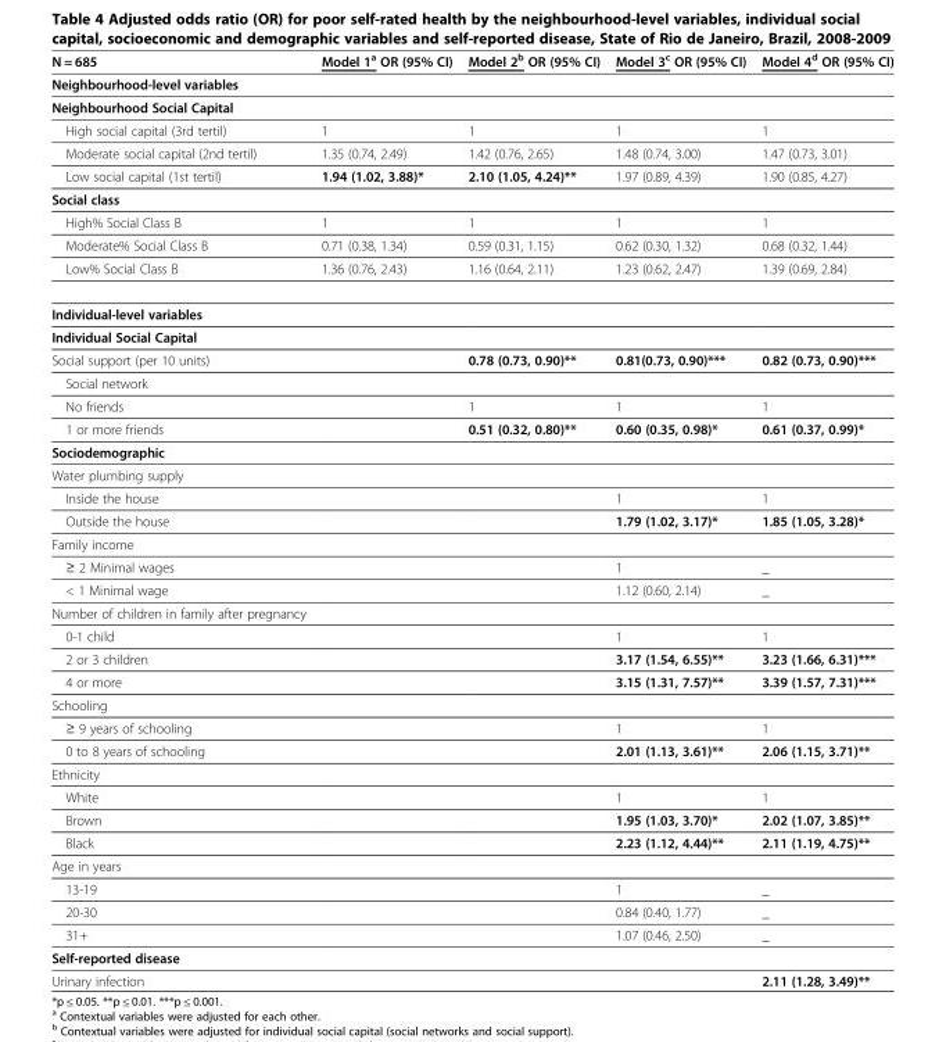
<table><thead><tr><td>N = 685</td><td>Model 1<sup>a</sup> OR (95% CI)</td><td>Model 2<sup>b</sup> OR (95% CI)</td><td>Model 3<sup>c</sup> OR (95% CI)</td><td>Model 4<sup>d</sup> OR (95% CI)</td></tr></thead><tbody><tr><td colspan="5">Neighbourhood-level variables</td></tr><tr><td colspan="5">Neighbourhood Social Capital</td></tr><tr><td>High social capital (3rd tertil)</td><td>1</td><td>1</td><td>1</td><td>1</td></tr><tr><td>Moderate social capital (2nd tertil)</td><td>1.35 (0.74, 2.49)</td><td>1.42 (0.76, 2.65)</td><td>1.48 (0.74, 3.00)</td><td>1.47 (0.73, 3.01)</td></tr><tr><td>Low social capital (1st tertil)</td><td>1.94 (1.02, 3.88)*</td><td>2.10 (1.05, 4.24)**</td><td>1.97 (0.89, 4.39)</td><td>1.90 (0.85, 4.27)</td></tr><tr><td colspan="5">Social class</td></tr><tr><td>High% Social Class B</td><td>1</td><td>1</td><td>1</td><td>1</td></tr><tr><td>Moderate% Social Class B</td><td>0.71 (0.38, 1.34)</td><td>0.59 (0.31, 1.15)</td><td>0.62 (0.30, 1.32)</td><td>0.68 (0.32, 1.44)</td></tr><tr><td>Low% Social Class B</td><td>1.36 (0.76, 2.43)</td><td>1.16 (0.64, 2.11)</td><td>1.23 (0.62, 2.47)</td><td>1.39 (0.69, 2.84)</td></tr><tr><td colspan="5">Individual-level variables</td></tr><tr><td colspan="5">Individual Social Capital</td></tr><tr><td>Social support (per 10 units)</td><td></td><td>0.78 (0.73, 0.90)**</td><td>0.81(0.73, 0.90)***</td><td>0.82 (0.73, 0.90)***</td></tr><tr><td colspan="5">Social network</td></tr><tr><td>No friends</td><td></td><td>1</td><td>1</td><td>1</td></tr><tr><td>1 or more friends</td><td></td><td>0.51 (0.32, 0.80)**</td><td>0.60 (0.35, 0.98)*</td><td>0.61 (0.37, 0.99)*</td></tr><tr><td colspan="5">Sociodemographic</td></tr><tr><td colspan="5">Water plumbing supply</td></tr><tr><td>Inside the house</td><td></td><td></td><td>1</td><td>1</td></tr><tr><td>Outside the house</td><td></td><td></td><td>1.79 (1.02, 3.17)*</td><td>1.85 (1.05, 3.28)*</td></tr><tr><td colspan="5">Family income</td></tr><tr><td>≥ 2 Minimal wages</td><td></td><td></td><td>1</td><td>_</td></tr><tr><td>&lt; 1 Minimal wage</td><td></td><td></td><td>1.12 (0.60, 2.14)</td><td>_</td></tr><tr><td colspan="5">Number of children in family after pregnancy</td></tr><tr><td>0-1 child</td><td></td><td></td><td>1</td><td>1</td></tr><tr><td>2 or 3 children</td><td></td><td></td><td>3.17 (1.54, 6.55)**</td><td>3.23 (1.66, 6.31)***</td></tr><tr><td>4 or more</td><td></td><td></td><td>3.15 (1.31, 7.57)**</td><td>3.39 (1.57, 7.31)***</td></tr><tr><td colspan="5">Schooling</td></tr><tr><td>≥ 9 years of schooling</td><td></td><td></td><td>1</td><td>1</td></tr><tr><td>0 to 8 years of schooling</td><td></td><td></td><td>2.01 (1.13, 3.61)**</td><td>2.06 (1.15, 3.71)**</td></tr><tr><td colspan="5">Ethnicity</td></tr><tr><td>White</td><td></td><td></td><td>1</td><td>1</td></tr><tr><td>Brown</td><td></td><td></td><td>1.95 (1.03, 3.70)*</td><td>2.02 (1.07, 3.85)**</td></tr><tr><td>Black</td><td></td><td></td><td>2.23 (1.12, 4.44)**</td><td>2.11 (1.19, 4.75)**</td></tr><tr><td colspan="5">Age in years</td></tr><tr><td>13-19</td><td></td><td></td><td>1</td><td>_</td></tr><tr><td>20-30</td><td></td><td></td><td>0.84 (0.40, 1.77)</td><td>_</td></tr><tr><td>31+</td><td></td><td></td><td>1.07 (0.46, 2.50)</td><td>_</td></tr><tr><td colspan="5">Self-reported disease</td></tr><tr><td>Urinary infection</td><td></td><td></td><td></td><td>2.11 (1.28, 3.49)**</td></tr></tbody></table>